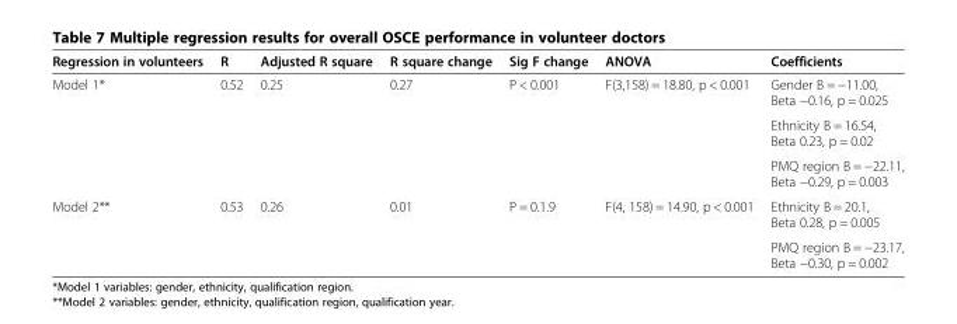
<table><thead><tr><td>Regression in volunteers</td><td>R</td><td>Adjusted R square</td><td>R square change</td><td>Sig F change</td><td>ANOVA</td><td>Coefficients</td></tr></thead><tbody><tr><td rowspan="3">Model 1*</td><td>0.52</td><td>0.25</td><td>0.27</td><td>P &lt; 0.001</td><td>F(3,158) = 18.80, p &lt; 0.001</td><td>Gender B = −11.00, Beta −0.16, p = 0.025</td></tr><tr><td></td><td></td><td></td><td></td><td></td><td>Ethnicity B = 16.54, Beta 0.23, p = 0.02</td></tr><tr><td></td><td></td><td></td><td></td><td></td><td>PMQ region B = −22.11, Beta −0.29, p = 0.003</td></tr><tr><td rowspan="2">Model 2**</td><td>0.53</td><td>0.26</td><td>0.01</td><td>P = 0.1.9</td><td>F(4, 158) = 14.90, p &lt; 0.001</td><td>Ethnicity B = 20.1, Beta 0.28, p = 0.005</td></tr><tr><td></td><td></td><td></td><td></td><td></td><td>PMQ region B = −23.17, Beta −0.30, p = 0.002</td></tr></tbody></table>